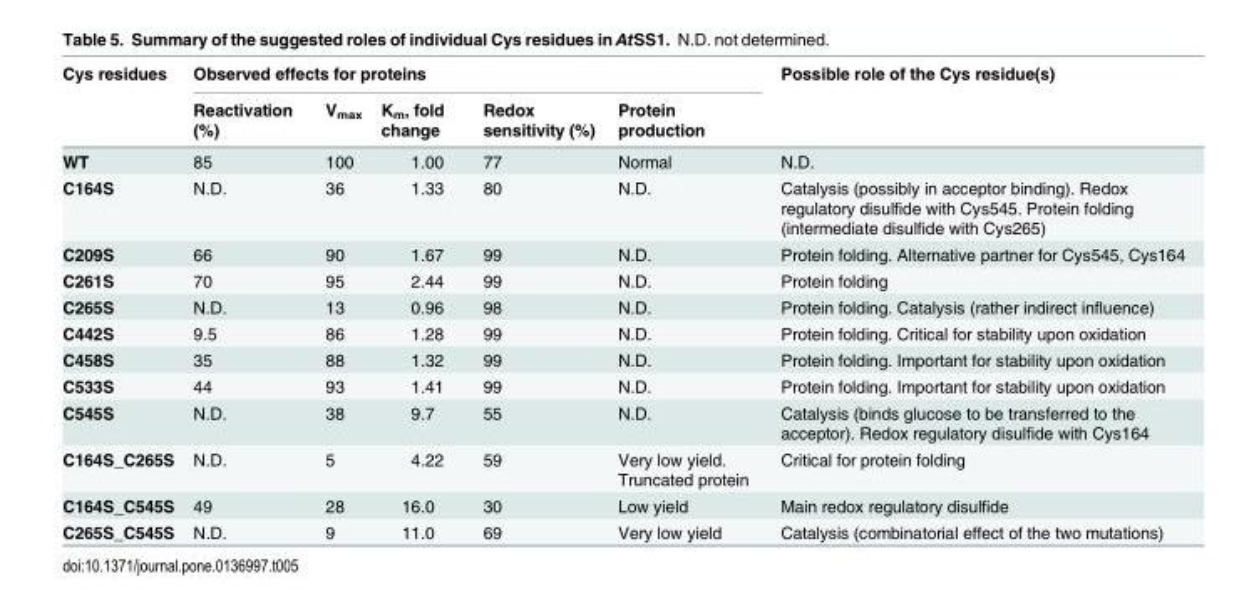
<table><thead><tr><td rowspan="2">Cys residues</td><td colspan="5">Observed effects for proteins</td><td rowspan="2">Possible role of the Cys residue(s)</td></tr><tr><td>Reactivation (%)</td><td>V<sub>max</sub></td><td>K<sub>m</sub>, fold change</td><td>Redox sensitivity (%)</td><td>Protein production</td></tr></thead><tbody><tr><td>WT</td><td>85</td><td>100</td><td>1.00</td><td>77</td><td>Normal</td><td>N.D.</td></tr><tr><td>C164S</td><td>N.D.</td><td>36</td><td>1.33</td><td>80</td><td>N.D.</td><td>Catalysis (possibly in acceptor binding). Redox regulatory disulfide with Cys545. Protein folding (intermediate disulfide with Cys265)</td></tr><tr><td>C209S</td><td>66</td><td>90</td><td>1.67</td><td>99</td><td>N.D.</td><td>Protein folding. Alternative partner for Cys545, Cys164</td></tr><tr><td>C261S</td><td>70</td><td>95</td><td>2.44</td><td>99</td><td>N.D.</td><td>Protein folding</td></tr><tr><td>C265S</td><td>N.D.</td><td>13</td><td>0.96</td><td>98</td><td>N.D.</td><td>Protein folding. Catalysis (rather indirect influence)</td></tr><tr><td>C442S</td><td>9.5</td><td>86</td><td>1.28</td><td>99</td><td>N.D.</td><td>Protein folding. Critical for stability upon oxidation</td></tr><tr><td>C458S</td><td>35</td><td>88</td><td>1.32</td><td>99</td><td>N.D.</td><td>Protein folding. Important for stability upon oxidation</td></tr><tr><td>C533S</td><td>44</td><td>93</td><td>1.41</td><td>99</td><td>N.D.</td><td>Protein folding. Important for stability upon oxidation</td></tr><tr><td>C545S</td><td>N.D.</td><td>38</td><td>9.7</td><td>55</td><td>N.D.</td><td>Catalysis (binds glucose to be transferred to the acceptor). Redox regulatory disulfide with Cys164</td></tr><tr><td>C164S_C265S</td><td>N.D.</td><td>5</td><td>4.22</td><td>59</td><td>Very low yield. Truncated protein</td><td>Critical for protein folding</td></tr><tr><td>C164S_C545S</td><td>49</td><td>28</td><td>16.0</td><td>30</td><td>Low yield</td><td>Main redox regulatory disulfide</td></tr><tr><td>C265S_C545S</td><td>N.D.</td><td>9</td><td>11.0</td><td>69</td><td>Very low yield</td><td>Catalysis (combinatorial effect of the two mutations)</td></tr></tbody></table>